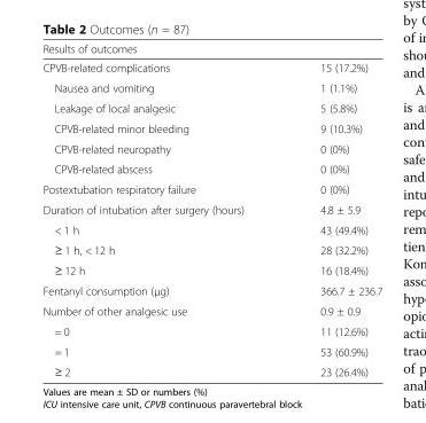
<table><thead><tr><td>Results of outcomes</td><td></td></tr></thead><tbody><tr><td>CPVB-related complications</td><td>15 (17.2%)</td></tr><tr><td>Nausea and vomiting</td><td>1 (1.1%)</td></tr><tr><td>Leakage of local analgesic</td><td>5 (5.8%)</td></tr><tr><td>CPVB-related minor bleeding</td><td>9 (10.3%)</td></tr><tr><td>CPVB-related neuropathy</td><td>0 (0%)</td></tr><tr><td>CPVB-related abscess</td><td>0 (0%)</td></tr><tr><td>Postextubation respiratory failure</td><td>0 (0%)</td></tr><tr><td>Duration of intubation after surgery (hours)</td><td>4.8 ± 5.9</td></tr><tr><td>&lt; 1 h</td><td>43 (49.4%)</td></tr><tr><td>≥ 1 h, &lt; 12 h</td><td>28 (32.2%)</td></tr><tr><td>≥ 12 h</td><td>16 (18.4%)</td></tr><tr><td>Fentanyl consumption (μg)</td><td>366.7 ± 236.7</td></tr><tr><td>Number of other analgesic use</td><td>0.9 ± 0.9</td></tr><tr><td>= 0</td><td>11 (12.6%)</td></tr><tr><td>= 1</td><td>53 (60.9%)</td></tr><tr><td>≥ 2</td><td>23 (26.4%)</td></tr></tbody></table>